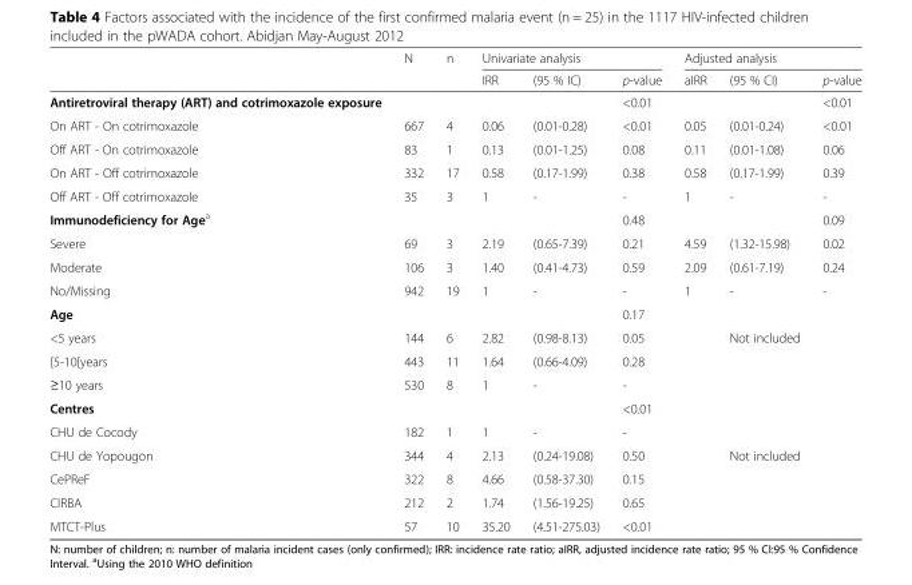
<table><thead><tr><td rowspan="2"></td><td rowspan="2">N</td><td rowspan="2">n</td><td colspan="3">Univariate analysis</td><td colspan="3">Adjusted analysis</td></tr><tr><td>IRR</td><td>(95 % IC)</td><td>p-value</td><td>aIRR</td><td>(95 % CI)</td><td>p-value</td></tr></thead><tbody><tr><td>Antiretroviral therapy (ART) and cotrimoxazole exposure</td><td></td><td></td><td></td><td></td><td>&lt;0.01</td><td></td><td></td><td>&lt;0.01</td></tr><tr><td>On ART - On cotrimoxazole</td><td>667</td><td>4</td><td>0.06</td><td>(0.01-0.28)</td><td>&lt;0.01</td><td>0.05</td><td>(0.01-0.24)</td><td>&lt;0.01</td></tr><tr><td>Off ART - On cotrimoxazole</td><td>83</td><td>1</td><td>0.13</td><td>(0.01-1.25)</td><td>0.08</td><td>0.11</td><td>(0.01-1.08)</td><td>0.06</td></tr><tr><td>On ART - Off cotrimoxazole</td><td>332</td><td>17</td><td>0.58</td><td>(0.17-1.99)</td><td>0.38</td><td>0.58</td><td>(0.17-1.99)</td><td>0.39</td></tr><tr><td>Off ART - Off cotrimoxazole</td><td>35</td><td>3</td><td>1</td><td>-</td><td>-</td><td>1</td><td>-</td><td>-</td></tr><tr><td>Immunodeficiency for Age<sup>a</sup></td><td></td><td></td><td></td><td></td><td>0.48</td><td></td><td></td><td>0.09</td></tr><tr><td>Severe</td><td>69</td><td>3</td><td>2.19</td><td>(0.65-7.39)</td><td>0.21</td><td>4.59</td><td>(1.32-15.98)</td><td>0.02</td></tr><tr><td>Moderate</td><td>106</td><td>3</td><td>1.40</td><td>(0.41-4.73)</td><td>0.59</td><td>2.09</td><td>(0.61-7.19)</td><td>0.24</td></tr><tr><td>No/Missing</td><td>942</td><td>19</td><td>1</td><td>-</td><td>-</td><td>1</td><td>-</td><td>-</td></tr><tr><td>Age</td><td></td><td></td><td></td><td></td><td>0.17</td><td></td><td></td><td></td></tr><tr><td>&lt;5 years</td><td>144</td><td>6</td><td>2.82</td><td>(0.98-8.13)</td><td>0.05</td><td></td><td>Not included</td><td></td></tr><tr><td>[5-10[years</td><td>443</td><td>11</td><td>1.64</td><td>(0.66-4.09)</td><td>0.28</td><td></td><td></td><td></td></tr><tr><td>≥10 years</td><td>530</td><td>8</td><td>1</td><td>-</td><td>-</td><td></td><td></td><td></td></tr><tr><td>Centres</td><td></td><td></td><td></td><td></td><td>&lt;0.01</td><td></td><td></td><td></td></tr><tr><td>CHU de Cocody</td><td>182</td><td>1</td><td>1</td><td>-</td><td>-</td><td></td><td></td><td></td></tr><tr><td>CHU de Yopougon</td><td>344</td><td>4</td><td>2.13</td><td>(0.24-19.08)</td><td>0.50</td><td></td><td>Not included</td><td></td></tr><tr><td>CePReF</td><td>322</td><td>8</td><td>4.66</td><td>(0.58-37.30)</td><td>0.15</td><td></td><td></td><td></td></tr><tr><td>CIRBA</td><td>212</td><td>2</td><td>1.74</td><td>(1.56-19.25)</td><td>0.65</td><td></td><td></td><td></td></tr><tr><td>MTCT-Plus</td><td>57</td><td>10</td><td>35.20</td><td>(4.51-275.03)</td><td>&lt;0.01</td><td></td><td></td><td></td></tr></tbody></table>